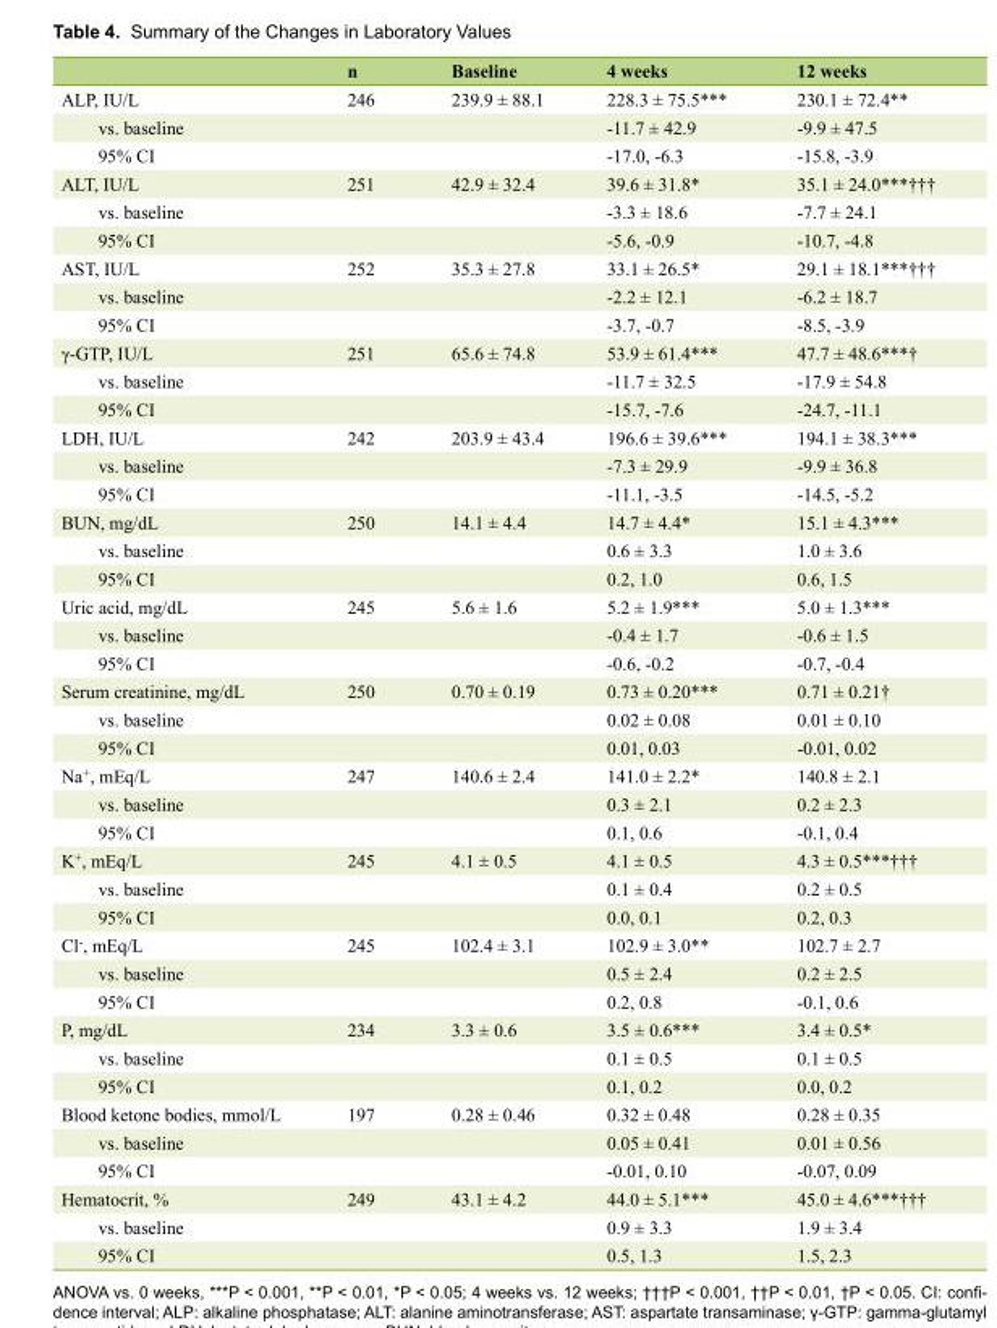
<table><thead><tr><td></td><td>n</td><td>Baseline</td><td>4 weeks</td><td>12 weeks</td></tr></thead><tbody><tr><td>ALP, IU/L</td><td>246</td><td>239.9 ± 88.1</td><td>228.3 ± 75.5***</td><td>230.1 ± 72.4**</td></tr><tr><td>vs. baseline</td><td></td><td></td><td>-11.7 ± 42.9</td><td>-9.9 ± 47.5</td></tr><tr><td>95% CI</td><td></td><td></td><td>-17.0, -6.3</td><td>-15.8, -3.9</td></tr><tr><td>ALT, IU/L</td><td>251</td><td>42.9 ± 32.4</td><td>39.6 ± 31.8*</td><td>35.1 ± 24.0***†††</td></tr><tr><td>vs. baseline</td><td></td><td></td><td>-3.3 ± 18.6</td><td>-7.7 ± 24.1</td></tr><tr><td>95% CI</td><td></td><td></td><td>-5.6, -0.9</td><td>-10.7, -4.8</td></tr><tr><td>AST, IU/L</td><td>252</td><td>35.3 ± 27.8</td><td>33.1 ± 26.5*</td><td>29.1 ± 18.1***†††</td></tr><tr><td>vs. baseline</td><td></td><td></td><td>-2.2 ± 12.1</td><td>-6.2 ± 18.7</td></tr><tr><td>95% CI</td><td></td><td></td><td>-3.7, -0.7</td><td>-8.5, -3.9</td></tr><tr><td>γ-GTP, IU/L</td><td>251</td><td>65.6 ± 74.8</td><td>53.9 ± 61.4***</td><td>47.7 ± 48.6***†</td></tr><tr><td>vs. baseline</td><td></td><td></td><td>-11.7 ± 32.5</td><td>-17.9 ± 54.8</td></tr><tr><td>95% CI</td><td></td><td></td><td>-15.7, -7.6</td><td>-24.7, -11.1</td></tr><tr><td>LDH, IU/L</td><td>242</td><td>203.9 ± 43.4</td><td>196.6 ± 39.6***</td><td>194.1 ± 38.3***</td></tr><tr><td>vs. baseline</td><td></td><td></td><td>-7.3 ± 29.9</td><td>-9.9 ± 36.8</td></tr><tr><td>95% CI</td><td></td><td></td><td>-11.1, -3.5</td><td>-14.5, -5.2</td></tr><tr><td>BUN, mg/dL</td><td>250</td><td>14.1 ± 4.4</td><td>14.7 ± 4.4*</td><td>15.1 ± 4.3***</td></tr><tr><td>vs. baseline</td><td></td><td></td><td>0.6 ± 3.3</td><td>1.0 ± 3.6</td></tr><tr><td>95% CI</td><td></td><td></td><td>0.2, 1.0</td><td>0.6, 1.5</td></tr><tr><td>Uric acid, mg/dL</td><td>245</td><td>5.6 ± 1.6</td><td>5.2 ± 1.9***</td><td>5.0 ± 1.3***</td></tr><tr><td>vs. baseline</td><td></td><td></td><td>-0.4 ± 1.7</td><td>-0.6 ± 1.5</td></tr><tr><td>95% CI</td><td></td><td></td><td>-0.6, -0.2</td><td>-0.7, -0.4</td></tr><tr><td>Serum creatinine, mg/dL</td><td>250</td><td>0.70 ± 0.19</td><td>0.73 ± 0.20***</td><td>0.71 ± 0.21†</td></tr><tr><td>vs. baseline</td><td></td><td></td><td>0.02 ± 0.08</td><td>0.01 ± 0.10</td></tr><tr><td>95% CI</td><td></td><td></td><td>0.01, 0.03</td><td>-0.01, 0.02</td></tr><tr><td>Na<sup>+</sup>, mEq/L</td><td>247</td><td>140.6 ± 2.4</td><td>141.0 ± 2.2*</td><td>140.8 ± 2.1</td></tr><tr><td>vs. baseline</td><td></td><td></td><td>0.3 ± 2.1</td><td>0.2 ± 2.3</td></tr><tr><td>95% CI</td><td></td><td></td><td>0.1, 0.6</td><td>-0.1, 0.4</td></tr><tr><td>K<sup>+</sup>, mEq/L</td><td>245</td><td>4.1 ± 0.5</td><td>4.1 ± 0.5</td><td>4.3 ± 0.5***†††</td></tr><tr><td>vs. baseline</td><td></td><td></td><td>0.1 ± 0.4</td><td>0.2 ± 0.5</td></tr><tr><td>95% CI</td><td></td><td></td><td>0.0, 0.1</td><td>0.2, 0.3</td></tr><tr><td>Cl<sup>-</sup>, mEq/L</td><td>245</td><td>102.4 ± 3.1</td><td>102.9 ± 3.0**</td><td>102.7 ± 2.7</td></tr><tr><td>vs. baseline</td><td></td><td></td><td>0.5 ± 2.4</td><td>0.2 ± 2.5</td></tr><tr><td>95% CI</td><td></td><td></td><td>0.2, 0.8</td><td>-0.1, 0.6</td></tr><tr><td>P, mg/dL</td><td>234</td><td>3.3 ± 0.6</td><td>3.5 ± 0.6***</td><td>3.4 ± 0.5*</td></tr><tr><td>vs. baseline</td><td></td><td></td><td>0.1 ± 0.5</td><td>0.1 ± 0.5</td></tr><tr><td>95% CI</td><td></td><td></td><td>0.1, 0.2</td><td>0.0, 0.2</td></tr><tr><td>Blood ketone bodies, mmol/L</td><td>197</td><td>0.28 ± 0.46</td><td>0.32 ± 0.48</td><td>0.28 ± 0.35</td></tr><tr><td>vs. baseline</td><td></td><td></td><td>0.05 ± 0.41</td><td>0.01 ± 0.56</td></tr><tr><td>95% CI</td><td></td><td></td><td>-0.01, 0.10</td><td>-0.07, 0.09</td></tr><tr><td>Hematocrit, %</td><td>249</td><td>43.1 ± 4.2</td><td>44.0 ± 5.1***</td><td>45.0 ± 4.6***†††</td></tr><tr><td>vs. baseline</td><td></td><td></td><td>0.9 ± 3.3</td><td>1.9 ± 3.4</td></tr><tr><td>95% CI</td><td></td><td></td><td>0.5, 1.3</td><td>1.5, 2.3</td></tr></tbody></table>